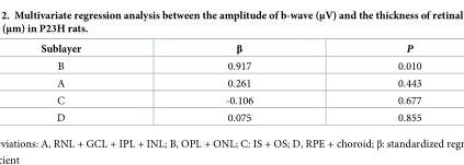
<table><thead><tr><td>Sublayer</td><td>β</td><td>P</td></tr></thead><tbody><tr><td>B</td><td>0.917</td><td>0.010</td></tr><tr><td>A</td><td>0.261</td><td>0.443</td></tr><tr><td>C</td><td>-0.106</td><td>0.677</td></tr><tr><td>D</td><td>0.075</td><td>0.855</td></tr></tbody></table>